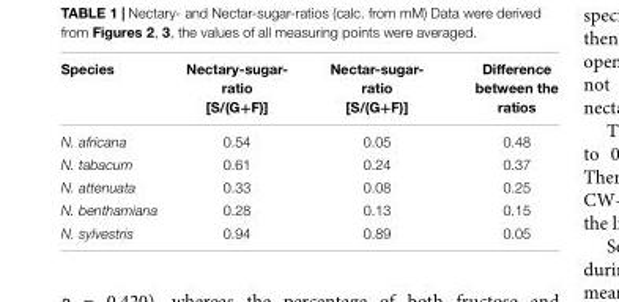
<table><thead><tr><td>Species</td><td>Nectary-sugar- ratio [S/(G+F)]</td><td>Nectar-sugar- ratio [S/(G+F)]</td><td>Difference between the ratios</td></tr></thead><tbody><tr><td>N. africana</td><td>0.54</td><td>0.05</td><td>0.48</td></tr><tr><td>N. tabacum</td><td>0.61</td><td>0.24</td><td>0.37</td></tr><tr><td>N. attenuata</td><td>0.33</td><td>0.08</td><td>0.25</td></tr><tr><td>N. benthamiana</td><td>0.28</td><td>0.13</td><td>0.15</td></tr><tr><td>N. sylvestris</td><td>0.94</td><td>0.89</td><td>0.05</td></tr></tbody></table>